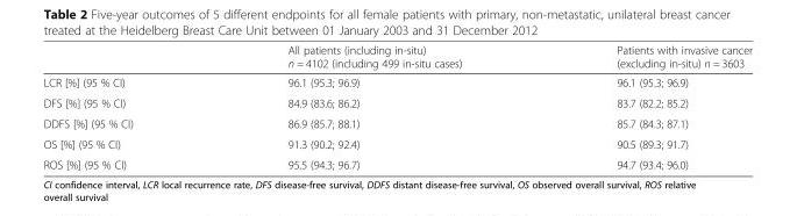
<table><thead><tr><td></td><td>All patients (including in-situ) n = 4102 (including 499 in-situ cases)</td><td>Patients with invasive cancer (excluding in-situ) n = 3603</td></tr></thead><tbody><tr><td>LCR [%] (95 % CI)</td><td>96.1 (95.3; 96.9)</td><td>96.1 (95.3; 96.9)</td></tr><tr><td>DFS [%] (95 % CI)</td><td>84.9 (83.6; 86.2)</td><td>83.7 (82.2; 85.2)</td></tr><tr><td>DDFS [%] (95 % CI)</td><td>86.9 (85.7; 88.1)</td><td>85.7 (84.3; 87.1)</td></tr><tr><td>OS [%] (95 % CI)</td><td>91.3 (90.2; 92.4)</td><td>90.5 (89.3; 91.7)</td></tr><tr><td>ROS [%] (95 % CI)</td><td>95.5 (94.3; 96.7)</td><td>94.7 (93.4; 96.0)</td></tr></tbody></table>